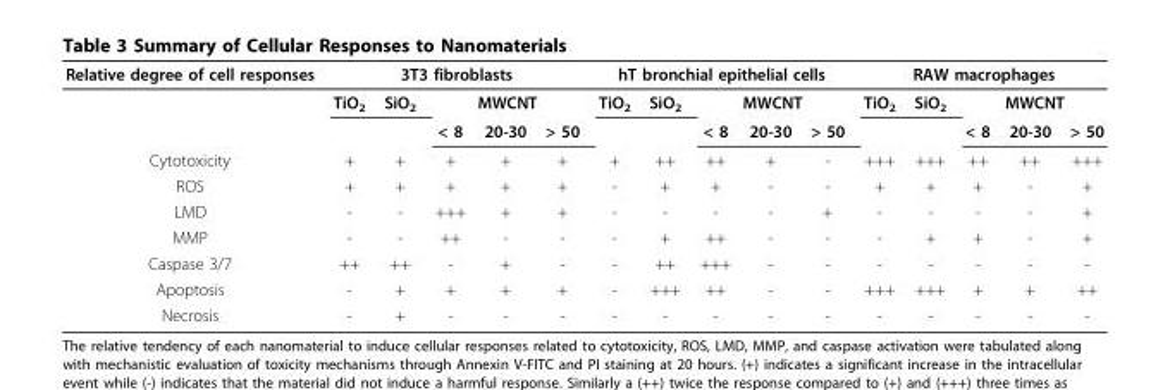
<table><thead><tr><td rowspan="3">Relative degree of cell responses</td><td colspan="5">3T3 fibroblasts</td><td colspan="5">hT bronchial epithelial cells</td><td colspan="5">RAW macrophages</td></tr><tr><td rowspan="2">TiO<sub>2</sub></td><td rowspan="2">SiO<sub>2</sub></td><td colspan="3">MWCNT</td><td rowspan="2">TiO<sub>2</sub></td><td rowspan="2">SiO<sub>2</sub></td><td colspan="3">MWCNT</td><td rowspan="2">TiO<sub>2</sub></td><td rowspan="2">SiO<sub>2</sub></td><td colspan="3">MWCNT</td></tr><tr><td>&lt; 8</td><td>20-30</td><td>&gt; 50</td><td>&lt; 8</td><td>20-30</td><td>&gt; 50</td><td>&lt; 8</td><td>20-30</td><td>&gt; 50</td></tr></thead><tbody><tr><td>Cytotoxicity</td><td>+</td><td>+</td><td>+</td><td>+</td><td>+</td><td>+</td><td>++</td><td>++</td><td>+</td><td>-</td><td>+++</td><td>+++</td><td>++</td><td>++</td><td>+++</td></tr><tr><td>ROS</td><td>+</td><td>+</td><td>+</td><td>+</td><td>+</td><td>-</td><td>+</td><td>+</td><td>-</td><td>-</td><td>+</td><td>+</td><td>+</td><td>-</td><td>+</td></tr><tr><td>LMD</td><td>-</td><td>-</td><td>+++</td><td>+</td><td>+</td><td>-</td><td>-</td><td>-</td><td>-</td><td>+</td><td>-</td><td>-</td><td>-</td><td>-</td><td>+</td></tr><tr><td>MMP</td><td>-</td><td>-</td><td>++</td><td>-</td><td>-</td><td>-</td><td>+</td><td>++</td><td>-</td><td>-</td><td>-</td><td>+</td><td>+</td><td>-</td><td>+</td></tr><tr><td>Caspase 3/7</td><td>++</td><td>++</td><td>-</td><td>+</td><td>-</td><td>-</td><td>++</td><td>+++</td><td>-</td><td>-</td><td>-</td><td>-</td><td>-</td><td>-</td><td>-</td></tr><tr><td>Apoptosis</td><td>-</td><td>+</td><td>+</td><td>+</td><td>+</td><td>-</td><td>+++</td><td>++</td><td>-</td><td>-</td><td>+++</td><td>+++</td><td>+</td><td>+</td><td>++</td></tr><tr><td>Necrosis</td><td>-</td><td>+</td><td>-</td><td>-</td><td>-</td><td>-</td><td>-</td><td>-</td><td>-</td><td>-</td><td>-</td><td>-</td><td>-</td><td>-</td><td>-</td></tr></tbody></table>